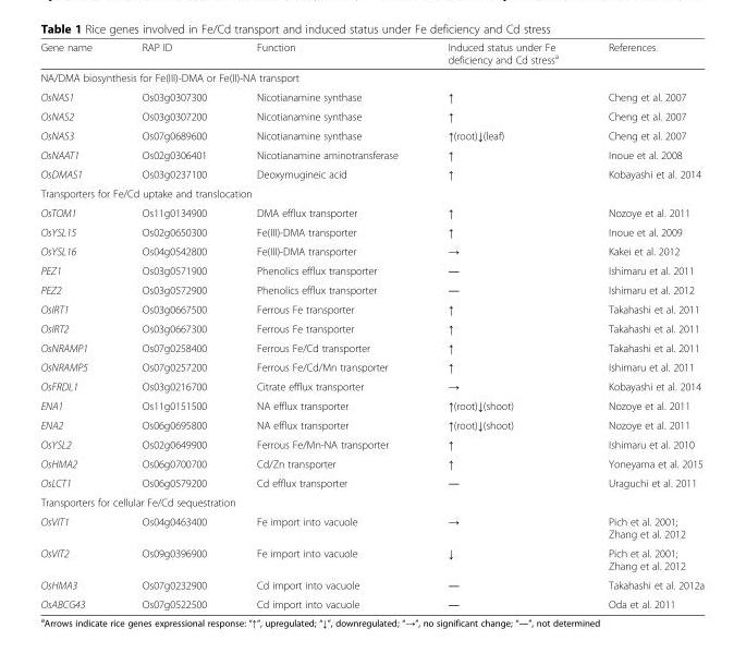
<table><thead><tr><td>Gene name</td><td>RAP ID</td><td>Function</td><td>Induced status under Fe deficiency and Cd stress<sup>a</sup></td><td>References</td></tr></thead><tbody><tr><td colspan="5">NA/DMA biosynthesis for Fe(III)-DMA or Fe(II)-NA transport</td></tr><tr><td>OsNAS1</td><td>Os03g0307300</td><td>Nicotianamine synthase</td><td>↑</td><td>Cheng et al. 2007</td></tr><tr><td>OsNAS2</td><td>Os03g0307200</td><td>Nicotianamine synthase</td><td>↑</td><td>Cheng et al. 2007</td></tr><tr><td>OsNAS3</td><td>Os07g0689600</td><td>Nicotianamine synthase</td><td>↑(root)↓(leaf)</td><td>Cheng et al. 2007</td></tr><tr><td>OsNAAT1</td><td>Os02g0306401</td><td>Nicotianamine aminotransferase</td><td>↑</td><td>Inoue et al. 2008</td></tr><tr><td>OsDMAS1</td><td>Os03g0237100</td><td>Deoxymugineic acid</td><td>↑</td><td>Kobayashi et al. 2014</td></tr><tr><td colspan="5">Transporters for Fe/Cd uptake and translocation</td></tr><tr><td>OsTOM1</td><td>Os11g0134900</td><td>DMA efflux transporter</td><td>↑</td><td>Nozoye et al. 2011</td></tr><tr><td>OsYSL15</td><td>Os02g0650300</td><td>Fe(III)-DMA transporter</td><td>↑</td><td>Inoue et al. 2009</td></tr><tr><td>OsYSL16</td><td>Os04g0542800</td><td>Fe(III)-DMA transporter</td><td>→</td><td>Kakei et al. 2012</td></tr><tr><td>PEZ1</td><td>Os03g0571900</td><td>Phenolics efflux transporter</td><td>―</td><td>Ishimaru et al. 2011</td></tr><tr><td>PEZ2</td><td>Os03g0572900</td><td>Phenolics efflux transporter</td><td>―</td><td>Ishimaru et al. 2012</td></tr><tr><td>OsIRT1</td><td>Os03g0667500</td><td>Ferrous Fe transporter</td><td>↑</td><td>Takahashi et al. 2011</td></tr><tr><td>OsIRT2</td><td>Os03g0667300</td><td>Ferrous Fe transporter</td><td>↑</td><td>Takahashi et al. 2011</td></tr><tr><td>OsNRAMP1</td><td>Os07g0258400</td><td>Ferrous Fe/Cd transporter</td><td>↑</td><td>Takahashi et al. 2011</td></tr><tr><td>OsNRAMP5</td><td>Os07g0257200</td><td>Ferrous Fe/Cd/Mn transporter</td><td>↑</td><td>Ishimaru et al. 2011</td></tr><tr><td>OsFRDL1</td><td>Os03g0216700</td><td>Citrate efflux transporter</td><td>→</td><td>Kobayashi et al. 2014</td></tr><tr><td>ENA1</td><td>Os11g0151500</td><td>NA efflux transporter</td><td>↑(root)↓(shoot)</td><td>Nozoye et al. 2011</td></tr><tr><td>ENA2</td><td>Os06g0695800</td><td>NA efflux transporter</td><td>↑(root)↓(shoot)</td><td>Nozoye et al. 2011</td></tr><tr><td>OsYSL2</td><td>Os02g0649900</td><td>Ferrous Fe/Mn-NA transporter</td><td>↑</td><td>Ishimaru et al. 2010</td></tr><tr><td>OsHMA2</td><td>Os06g0700700</td><td>Cd/Zn transporter</td><td>↑</td><td>Yoneyama et al. 2015</td></tr><tr><td>OsLCT1</td><td>Os06g0579200</td><td>Cd efflux transporter</td><td>―</td><td>Uraguchi et al. 2011</td></tr><tr><td colspan="5">Transporters for cellular Fe/Cd sequestration</td></tr><tr><td>OsVIT1</td><td>Os04g0463400</td><td>Fe import into vacuole</td><td>→</td><td>Pich et al. 2001; Zhang et al. 2012</td></tr><tr><td>OsVIT2</td><td>Os09g0396900</td><td>Fe import into vacuole</td><td>↓</td><td>Pich et al. 2001; Zhang et al. 2012</td></tr><tr><td>OsHMA3</td><td>Os07g0232900</td><td>Cd import into vacuole</td><td>―</td><td>Takahashi et al. 2012a</td></tr><tr><td>OsABCG43</td><td>Os07g0522500</td><td>Cd import into vacuole</td><td>―</td><td>Oda et al. 2011</td></tr></tbody></table>